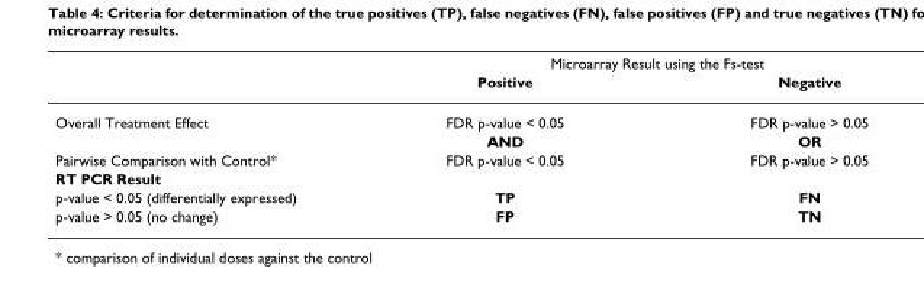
<table><thead><tr><td rowspan="2"></td><td colspan="2">Microarray Result using the Fs-test</td></tr><tr><td>Positive</td><td>Negative</td></tr></thead><tbody><tr><td rowspan="2">Overall Treatment Effect</td><td>FDR p-value &lt; 0.05</td><td>FDR p-value &gt; 0.05</td></tr><tr><td>AND</td><td>OR</td></tr><tr><td>Pairwise Comparison with Control*</td><td>FDR p-value &lt; 0.05</td><td>FDR p-value &gt; 0.05</td></tr><tr><td colspan="3">RT PCR Result</td></tr><tr><td>p-value &lt; 0.05 (differentially expressed)</td><td>TP</td><td>FN</td></tr><tr><td>p-value &gt; 0.05 (no change)</td><td>FP</td><td>TN</td></tr></tbody></table>